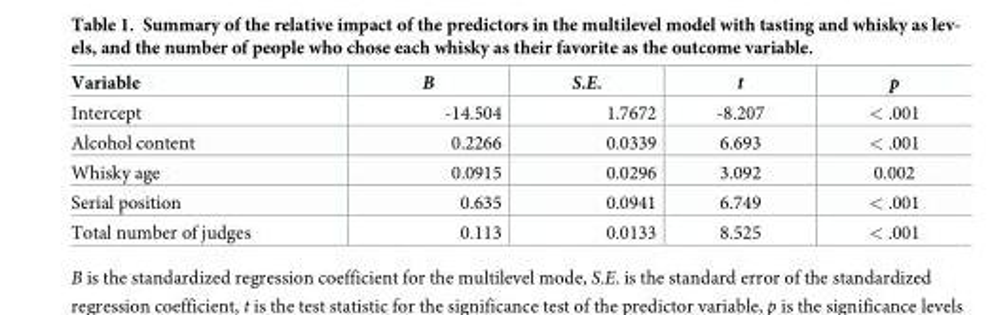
<table><thead><tr><td>Variable</td><td>B</td><td>S.E.</td><td>t</td><td>p</td></tr></thead><tbody><tr><td>Intercept</td><td>-14.504</td><td>1.7672</td><td>-8.207</td><td>&lt; .001</td></tr><tr><td>Alcohol content</td><td>0.2266</td><td>0.0339</td><td>6.693</td><td>&lt; .001</td></tr><tr><td>Whisky age</td><td>0.0915</td><td>0.0296</td><td>3.092</td><td>0.002</td></tr><tr><td>Serial position</td><td>0.635</td><td>0.0941</td><td>6.749</td><td>&lt; .001</td></tr><tr><td>Total number of judges</td><td>0.113</td><td>0.0133</td><td>8.525</td><td>&lt; .001</td></tr></tbody></table>